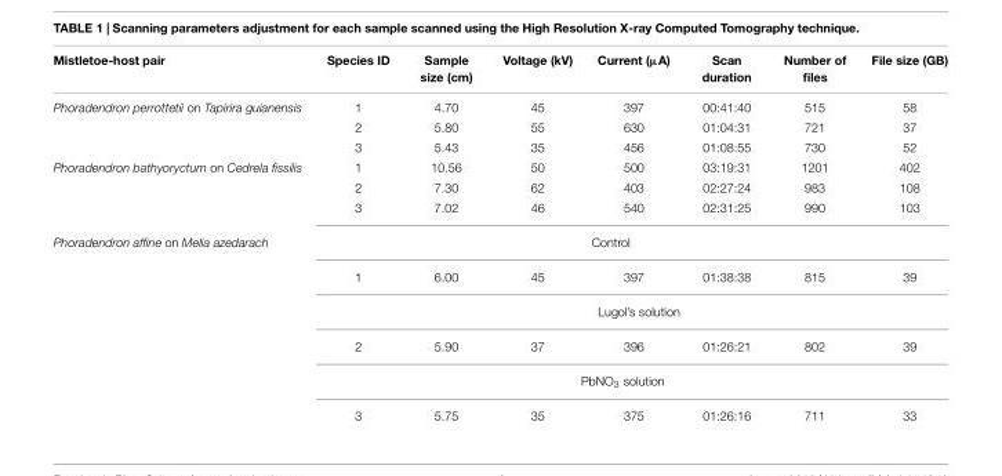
<table><thead><tr><td>Mistletoe-host pair</td><td>Species ID</td><td>Sample size (cm)</td><td>Voltage (kV)</td><td>Current (µA)</td><td>Scan duration</td><td>Number of files</td><td>File size (GB)</td></tr></thead><tbody><tr><td rowspan="3">Phoradendron perrottetii on Tapirira guianensis</td><td>1</td><td>4.70</td><td>45</td><td>397</td><td>00:41:40</td><td>515</td><td>58</td></tr><tr><td>2</td><td>5.80</td><td>55</td><td>630</td><td>01:04:31</td><td>721</td><td>37</td></tr><tr><td>3</td><td>5.43</td><td>35</td><td>456</td><td>01:08:55</td><td>730</td><td>52</td></tr><tr><td rowspan="3">Phoradendron bathyoryctum on Cedrela fissilis</td><td>1</td><td>10.56</td><td>50</td><td>500</td><td>03:19:31</td><td>1201</td><td>402</td></tr><tr><td>2</td><td>7.30</td><td>62</td><td>403</td><td>02:27:24</td><td>983</td><td>108</td></tr><tr><td>3</td><td>7.02</td><td>46</td><td>540</td><td>02:31:25</td><td>990</td><td>103</td></tr><tr><td rowspan="6">Phoradendron affine on Melia azedarach</td><td colspan="7">Control</td></tr><tr><td>1</td><td>6.00</td><td>45</td><td>397</td><td>01:38:38</td><td>815</td><td>39</td></tr><tr><td colspan="7">Lugol’s solution</td></tr><tr><td>2</td><td>5.90</td><td>37</td><td>396</td><td>01:26:21</td><td>802</td><td>39</td></tr><tr><td colspan="7">PbNO<sub>3</sub> solution</td></tr><tr><td>3</td><td>5.75</td><td>35</td><td>375</td><td>01:26:16</td><td>711</td><td>33</td></tr></tbody></table>